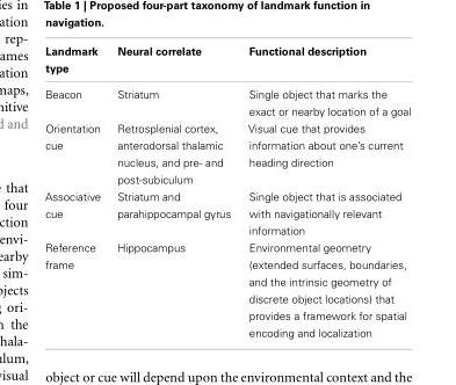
<table><thead><tr><td>Landmark type</td><td>Neural correlate</td><td>Functional description</td></tr></thead><tbody><tr><td>Beacon</td><td>Striatum</td><td>Single object that marks the exact or nearby location of a goal</td></tr><tr><td>Orientation cue</td><td>Retrosplenial cortex, anterodorsal thalamic nucleus, and pre- and post-subiculum</td><td>Visual cue that provides information about one’s current heading direction</td></tr><tr><td>Associative cue</td><td>Striatum and parahippocampal gyrus</td><td>Single object that is associated with navigationally relevant information</td></tr><tr><td>Reference frame</td><td>Hippocampus</td><td>Environmental geometry (extended surfaces, boundaries, and the intrinsic geometry of discrete object locations) that provides a framework for spatial encoding and localization</td></tr></tbody></table>